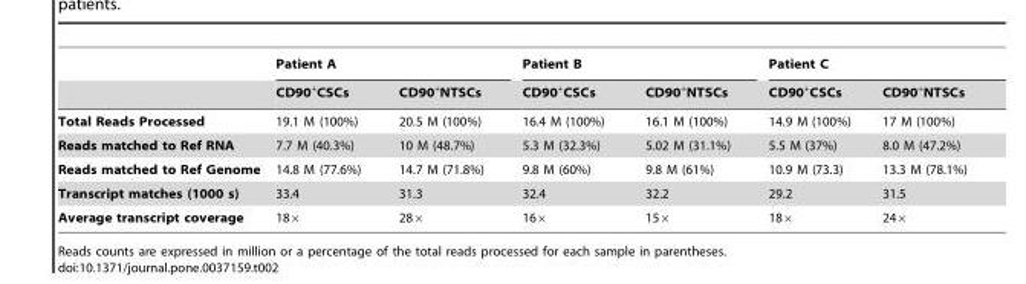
<table><thead><tr><td rowspan="2"></td><td colspan="2">Patient A</td><td colspan="2">Patient B</td><td colspan="2">Patient C</td></tr><tr><td>CD90<sup>+</sup>CSCs</td><td>CD90<sup>+</sup>NTSCs</td><td>CD90<sup>+</sup>CSCs</td><td>CD90<sup>+</sup>NTSCs</td><td>CD90<sup>+</sup>CSCs</td><td>CD90<sup>+</sup>NTSCs</td></tr></thead><tbody><tr><td>Total Reads Processed</td><td>19.1 M (100%)</td><td>20.5 M (100%)</td><td>16.4 M (100%)</td><td>16.1 M (100%)</td><td>14.9 M (100%)</td><td>17 M (100%)</td></tr><tr><td>Reads matched to Ref RNA</td><td>7.7 M (40.3%)</td><td>10 M (48.7%)</td><td>5.3 M (32.3%)</td><td>5.02 M (31.1%)</td><td>5.5 M (37%)</td><td>8.0 M (47.2%)</td></tr><tr><td>Reads matched to Ref Genome</td><td>14.8 M (77.6%)</td><td>14.7 M (71.8%)</td><td>9.8 M (60%)</td><td>9.8 M (61%)</td><td>10.9 M (73.3)</td><td>13.3 M (78.1%)</td></tr><tr><td>Transcript matches (1000 s)</td><td>33.4</td><td>31.3</td><td>32.4</td><td>32.2</td><td>29.2</td><td>31.5</td></tr><tr><td>Average transcript coverage</td><td>18×</td><td>28×</td><td>16×</td><td>15×</td><td>18×</td><td>24×</td></tr></tbody></table>